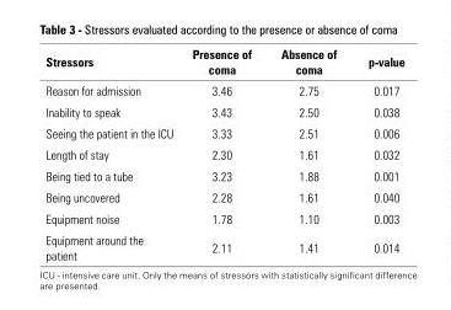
<table><thead><tr><td>Stressors</td><td>Presence of coma</td><td>Absence of coma</td><td>p-value</td></tr></thead><tbody><tr><td>Reason for admission</td><td>3.46</td><td>2.75</td><td>0.017</td></tr><tr><td>Inability to speak</td><td>3.43</td><td>2.50</td><td>0.038</td></tr><tr><td>Seeing the patient in the ICU</td><td>3.33</td><td>2.51</td><td>0.006</td></tr><tr><td>Length of stay</td><td>2.30</td><td>1.61</td><td>0.032</td></tr><tr><td>Being tied to a tube</td><td>3.23</td><td>1.88</td><td>0.001</td></tr><tr><td>Being uncovered</td><td>2.28</td><td>1.61</td><td>0.040</td></tr><tr><td>Equipment noise</td><td>1.78</td><td>1.10</td><td>0.003</td></tr><tr><td>Equipment around the patient</td><td>2.11</td><td>1.41</td><td>0.014</td></tr></tbody></table>